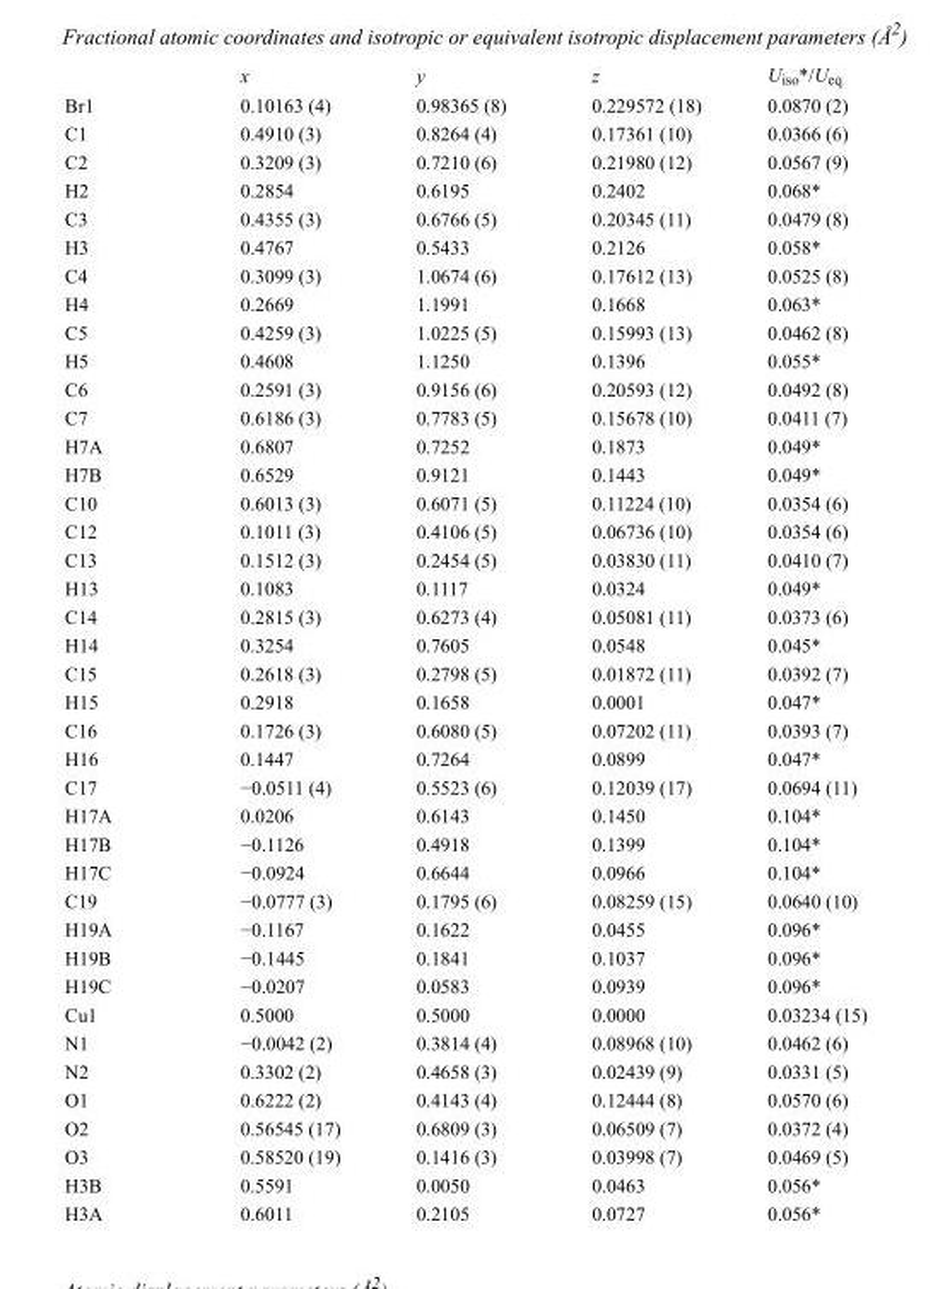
<table><thead><tr><td></td><td>x</td><td>y</td><td>z</td><td>U<sub>iso</sub>*/U<sub>eq</sub></td></tr></thead><tbody><tr><td>Br1</td><td>0.10163 (4)</td><td>0.98365 (8)</td><td>0.229572 (18)</td><td>0.0870 (2)</td></tr><tr><td>C1</td><td>0.4910 (3)</td><td>0.8264 (4)</td><td>0.17361 (10)</td><td>0.0366 (6)</td></tr><tr><td>C2</td><td>0.3209 (3)</td><td>0.7210 (6)</td><td>0.21980 (12)</td><td>0.0567 (9)</td></tr><tr><td>H2</td><td>0.2854</td><td>0.6195</td><td>0.2402</td><td>0.068*</td></tr><tr><td>C3</td><td>0.4355 (3)</td><td>0.6766 (5)</td><td>0.20345 (11)</td><td>0.0479 (8)</td></tr><tr><td>H3</td><td>0.4767</td><td>0.5433</td><td>0.2126</td><td>0.058*</td></tr><tr><td>C4</td><td>0.3099 (3)</td><td>1.0674 (6)</td><td>0.17612 (13)</td><td>0.0525 (8)</td></tr><tr><td>H4</td><td>0.2669</td><td>1.1991</td><td>0.1668</td><td>0.063*</td></tr><tr><td>C5</td><td>0.4259 (3)</td><td>1.0225 (5)</td><td>0.15993 (13)</td><td>0.0462 (8)</td></tr><tr><td>H5</td><td>0.4608</td><td>1.1250</td><td>0.1396</td><td>0.055*</td></tr><tr><td>C6</td><td>0.2591 (3)</td><td>0.9156 (6)</td><td>0.20593 (12)</td><td>0.0492 (8)</td></tr><tr><td>C7</td><td>0.6186 (3)</td><td>0.7783 (5)</td><td>0.15678 (10)</td><td>0.0411 (7)</td></tr><tr><td>H7A</td><td>0.6807</td><td>0.7252</td><td>0.1873</td><td>0.049*</td></tr><tr><td>H7B</td><td>0.6529</td><td>0.9121</td><td>0.1443</td><td>0.049*</td></tr><tr><td>C10</td><td>0.6013 (3)</td><td>0.6071 (5)</td><td>0.11224 (10)</td><td>0.0354 (6)</td></tr><tr><td>C12</td><td>0.1011 (3)</td><td>0.4106 (5)</td><td>0.06736 (10)</td><td>0.0354 (6)</td></tr><tr><td>C13</td><td>0.1512 (3)</td><td>0.2454 (5)</td><td>0.03830 (11)</td><td>0.0410 (7)</td></tr><tr><td>H13</td><td>0.1083</td><td>0.1117</td><td>0.0324</td><td>0.049*</td></tr><tr><td>C14</td><td>0.2815 (3)</td><td>0.6273 (4)</td><td>0.05081 (11)</td><td>0.0373 (6)</td></tr><tr><td>H14</td><td>0.3254</td><td>0.7605</td><td>0.0548</td><td>0.045*</td></tr><tr><td>C15</td><td>0.2618 (3)</td><td>0.2798 (5)</td><td>0.01872 (11)</td><td>0.0392 (7)</td></tr><tr><td>H15</td><td>0.2918</td><td>0.1658</td><td>0.0001</td><td>0.047*</td></tr><tr><td>C16</td><td>0.1726 (3)</td><td>0.6080 (5)</td><td>0.07202 (11)</td><td>0.0393 (7)</td></tr><tr><td>H16</td><td>0.1447</td><td>0.7264</td><td>0.0899</td><td>0.047*</td></tr><tr><td>C17</td><td>−0.0511 (4)</td><td>0.5523 (6)</td><td>0.12039 (17)</td><td>0.0694 (11)</td></tr><tr><td>H17A</td><td>0.0206</td><td>0.6143</td><td>0.1450</td><td>0.104*</td></tr><tr><td>H17B</td><td>−0.1126</td><td>0.4918</td><td>0.1399</td><td>0.104*</td></tr><tr><td>H17C</td><td>−0.0924</td><td>0.6644</td><td>0.0966</td><td>0.104*</td></tr><tr><td>C19</td><td>−0.0777 (3)</td><td>0.1795 (6)</td><td>0.08259 (15)</td><td>0.0640 (10)</td></tr><tr><td>H19A</td><td>−0.1167</td><td>0.1622</td><td>0.0455</td><td>0.096*</td></tr><tr><td>H19B</td><td>−0.1445</td><td>0.1841</td><td>0.1037</td><td>0.096*</td></tr><tr><td>H19C</td><td>−0.0207</td><td>0.0583</td><td>0.0939</td><td>0.096*</td></tr><tr><td>Cu1</td><td>0.5000</td><td>0.5000</td><td>0.0000</td><td>0.03234 (15)</td></tr><tr><td>N1</td><td>−0.0042 (2)</td><td>0.3814 (4)</td><td>0.08968 (10)</td><td>0.0462 (6)</td></tr><tr><td>N2</td><td>0.3302 (2)</td><td>0.4658 (3)</td><td>0.02439 (9)</td><td>0.0331 (5)</td></tr><tr><td>O1</td><td>0.6222 (2)</td><td>0.4143 (4)</td><td>0.12444 (8)</td><td>0.0570 (6)</td></tr><tr><td>O2</td><td>0.56545 (17)</td><td>0.6809 (3)</td><td>0.06509 (7)</td><td>0.0372 (4)</td></tr><tr><td>O3</td><td>0.58520 (19)</td><td>0.1416 (3)</td><td>0.03998 (7)</td><td>0.0469 (5)</td></tr><tr><td>H3B</td><td>0.5591</td><td>0.0050</td><td>0.0463</td><td>0.056*</td></tr><tr><td>H3A</td><td>0.6011</td><td>0.2105</td><td>0.0727</td><td>0.056*</td></tr></tbody></table>